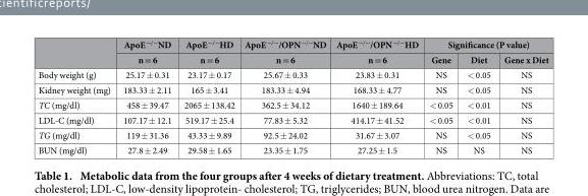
<table><thead><tr><td rowspan="2"></td><td rowspan="2">ApoE<sup>−/−</sup>ND n = 6</td><td rowspan="2">ApoE<sup>−/−</sup>HD n = 6</td><td rowspan="2">ApoE<sup>−/−/</sup>OPN<sup>−/−</sup>ND n = 6</td><td rowspan="2">ApoE<sup>−/−/</sup>OPN<sup>−/−</sup>HD n = 6</td><td colspan="3">Significance (P value)</td></tr><tr><td>Gene</td><td>Diet</td><td>Gene x Diet</td></tr></thead><tbody><tr><td>Body weight (g)</td><td>25.17 ± 0.31</td><td>23.17 ± 0.17</td><td>25.67 ± 0.33</td><td>23.83 ± 0.31</td><td>NS</td><td>&lt; 0.05</td><td>NS</td></tr><tr><td>Kidney weight (mg)</td><td>183.33 ± 2.11</td><td>165 ± 3.41</td><td>183.33 ± 4.94</td><td>168.33 ± 4.77</td><td>NS</td><td>&lt; 0.05</td><td>NS</td></tr><tr><td>TC (mg/dl)</td><td>458 ± 39.47</td><td>2065 ± 138.42</td><td>362.5 ± 34.12</td><td>1640 ± 189.64</td><td>&lt; 0.05</td><td>&lt; 0.01</td><td>NS</td></tr><tr><td>LDL-C (mg/dl)</td><td>107.17 ± 12.1</td><td>519.17 ± 25.4</td><td>77.83 ± 5.32</td><td>414.17 ± 41.52</td><td>&lt; 0.05</td><td>&lt; 0.01</td><td>NS</td></tr><tr><td>TG (mg/dl)</td><td>119 ± 31.36</td><td>43.33 ± 9.89</td><td>92.5 ± 24.02</td><td>31.67 ± 3.07</td><td>NS</td><td>&lt; 0.05</td><td>NS</td></tr><tr><td>BUN (mg/dl)</td><td>27.8 ± 2.49</td><td>29.58 ± 1.65</td><td>23.35 ± 1.75</td><td>27.25 ± 1.5</td><td>NS</td><td>NS</td><td>NS</td></tr></tbody></table>